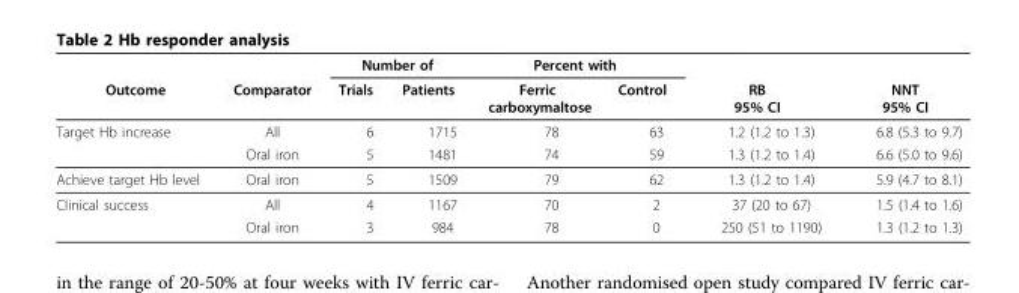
<table><thead><tr><td rowspan="2">Outcome</td><td rowspan="2">Comparator</td><td colspan="2">Number of</td><td colspan="2">Percent with</td><td rowspan="2">RB 95% CI</td><td rowspan="2">NNT 95% CI</td></tr><tr><td>Trials</td><td>Patients</td><td>Ferric carboxymaltose</td><td>Control</td></tr></thead><tbody><tr><td rowspan="2">Target Hb increase</td><td>All</td><td>6</td><td>1715</td><td>78</td><td>63</td><td>1.2 (1.2 to 1.3)</td><td>6.8 (5.3 to 9.7)</td></tr><tr><td>Oral iron</td><td>5</td><td>1481</td><td>74</td><td>59</td><td>1.3 (1.2 to 1.4)</td><td>6.6 (5.0 to 9.6)</td></tr><tr><td>Achieve target Hb level</td><td>Oral iron</td><td>5</td><td>1509</td><td>79</td><td>62</td><td>1.3 (1.2 to 1.4)</td><td>5.9 (4.7 to 8.1)</td></tr><tr><td rowspan="2">Clinical success</td><td>All</td><td>4</td><td>1167</td><td>70</td><td>2</td><td>37 (20 to 67)</td><td>1.5 (1.4 to 1.6)</td></tr><tr><td>Oral iron</td><td>3</td><td>984</td><td>78</td><td>0</td><td>250 (51 to 1190)</td><td>1.3 (1.2 to 1.3)</td></tr></tbody></table>